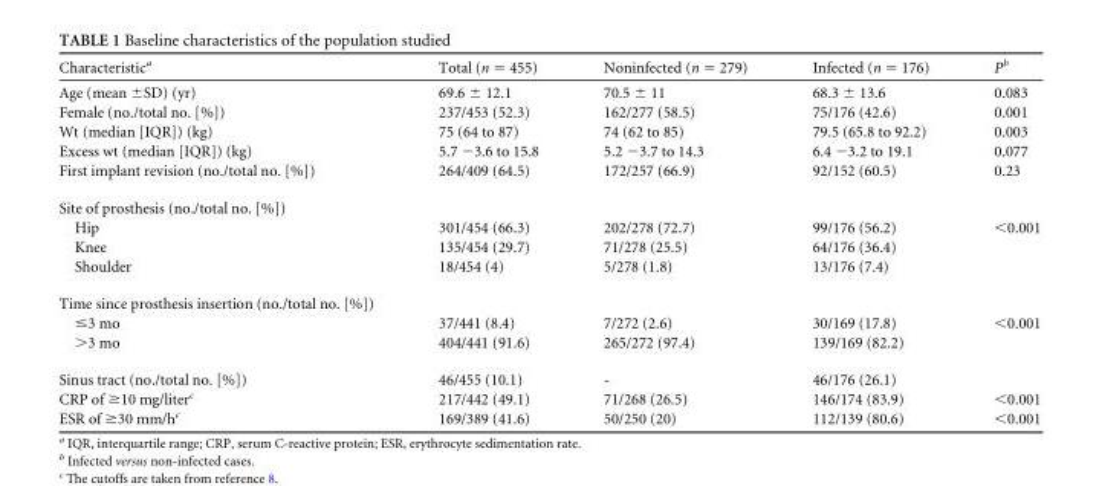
<table><thead><tr><td>Characteristic<sup>a</sup></td><td>Total (n = 455)</td><td>Noninfected (n = 279)</td><td>Infected (n = 176)</td><td>P<sup>b</sup></td></tr></thead><tbody><tr><td>Age (mean ±SD) (yr)</td><td>69.6 ± 12.1</td><td>70.5 ± 11</td><td>68.3 ± 13.6</td><td>0.083</td></tr><tr><td>Female (no./total no. [%])</td><td>237/453 (52.3)</td><td>162/277 (58.5)</td><td>75/176 (42.6)</td><td>0.001</td></tr><tr><td>Wt (median [IQR]) (kg)</td><td>75 (64 to 87)</td><td>74 (62 to 85)</td><td>79.5 (65.8 to 92.2)</td><td>0.003</td></tr><tr><td>Excess wt (median [IQR]) (kg)</td><td>5.7 −3.6 to 15.8</td><td>5.2 −3.7 to 14.3</td><td>6.4 −3.2 to 19.1</td><td>0.077</td></tr><tr><td>First implant revision (no./total no. [%])</td><td>264/409 (64.5)</td><td>172/257 (66.9)</td><td>92/152 (60.5)</td><td>0.23</td></tr><tr><td colspan="5">Site of prosthesis (no./total no. [%])</td></tr><tr><td>Hip</td><td>301/454 (66.3)</td><td>202/278 (72.7)</td><td>99/176 (56.2)</td><td>&lt;0.001</td></tr><tr><td>Knee</td><td>135/454 (29.7)</td><td>71/278 (25.5)</td><td>64/176 (36.4)</td><td></td></tr><tr><td>Shoulder</td><td>18/454 (4)</td><td>5/278 (1.8)</td><td>13/176 (7.4)</td><td></td></tr><tr><td colspan="5">Time since prosthesis insertion (no./total no. [%])</td></tr><tr><td>≤3 mo</td><td>37/441 (8.4)</td><td>7/272 (2.6)</td><td>30/169 (17.8)</td><td>&lt;0.001</td></tr><tr><td>&gt;3 mo</td><td>404/441 (91.6)</td><td>265/272 (97.4)</td><td>139/169 (82.2)</td><td></td></tr><tr><td>Sinus tract (no./total no. [%])</td><td>46/455 (10.1)</td><td>-</td><td>46/176 (26.1)</td><td></td></tr><tr><td>CRP of ≥10 mg/liter<sup>c</sup></td><td>217/442 (49.1)</td><td>71/268 (26.5)</td><td>146/174 (83.9)</td><td>&lt;0.001</td></tr><tr><td>ESR of ≥30 mm/h<sup>c</sup></td><td>169/389 (41.6)</td><td>50/250 (20)</td><td>112/139 (80.6)</td><td>&lt;0.001</td></tr></tbody></table>